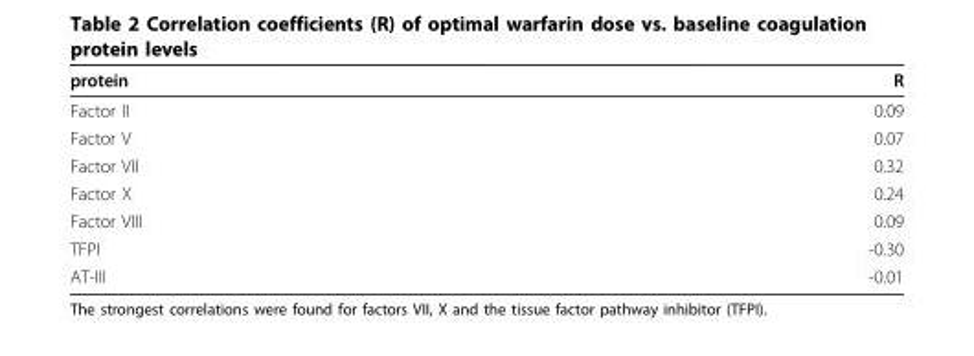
<table><thead><tr><td>protein</td><td>R</td></tr></thead><tbody><tr><td>Factor II</td><td>0.09</td></tr><tr><td>Factor V</td><td>0.07</td></tr><tr><td>Factor VII</td><td>0.32</td></tr><tr><td>Factor X</td><td>0.24</td></tr><tr><td>Factor VIII</td><td>0.09</td></tr><tr><td>TFPI</td><td>-0.30</td></tr><tr><td>AT-III</td><td>-0.01</td></tr></tbody></table>